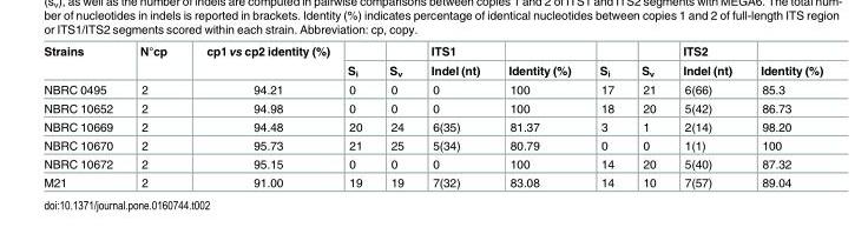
<table><thead><tr><td rowspan="2">Strains</td><td rowspan="2">N°cp</td><td rowspan="2">cp1 vs cp2 identity (%)</td><td rowspan="2">S<sub>i</sub></td><td rowspan="2">S<sub>v</sub></td><td rowspan="2">ITS1 Indel (nt)</td><td rowspan="2">Identity (%)</td><td rowspan="2">S<sub>i</sub></td><td rowspan="2">S<sub>v</sub></td><td rowspan="2">ITS2 Indel (nt)</td><td rowspan="2">Identity (%)</td></tr><tr></tr></thead><tbody><tr><td>NBRC 0495</td><td>2</td><td>94.21</td><td>0</td><td>0</td><td>0</td><td>100</td><td>17</td><td>21</td><td>6(66)</td><td>85.3</td></tr><tr><td>NBRC 10652</td><td>2</td><td>94.98</td><td>0</td><td>0</td><td>0</td><td>100</td><td>18</td><td>20</td><td>5(42)</td><td>86.73</td></tr><tr><td>NBRC 10669</td><td>2</td><td>94.48</td><td>20</td><td>24</td><td>6(35)</td><td>81.37</td><td>3</td><td>1</td><td>2(14)</td><td>98.20</td></tr><tr><td>NBRC 10670</td><td>2</td><td>95.73</td><td>21</td><td>25</td><td>5(34)</td><td>80.79</td><td>0</td><td>0</td><td>1(1)</td><td>100</td></tr><tr><td>NBRC 10672</td><td>2</td><td>95.15</td><td>0</td><td>0</td><td>0</td><td>100</td><td>14</td><td>20</td><td>5(40)</td><td>87.32</td></tr><tr><td>M21</td><td>2</td><td>91.00</td><td>19</td><td>19</td><td>7(32)</td><td>83.08</td><td>14</td><td>10</td><td>7(57)</td><td>89.04</td></tr></tbody></table>